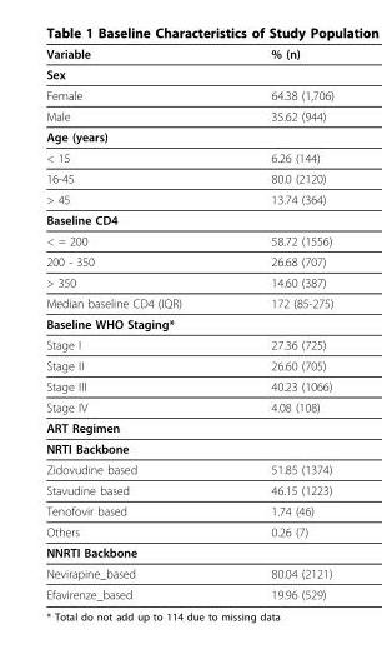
<table><thead><tr><td>Variable</td><td>% (n)</td></tr></thead><tbody><tr><td colspan="2">Sex</td></tr><tr><td>Female</td><td>64.38 (1,706)</td></tr><tr><td>Male</td><td>35.62 (944)</td></tr><tr><td colspan="2">Age (years)</td></tr><tr><td>&lt; 15</td><td>6.26 (144)</td></tr><tr><td>16-45</td><td>80.0 (2120)</td></tr><tr><td>&gt; 45</td><td>13.74 (364)</td></tr><tr><td colspan="2">Baseline CD4</td></tr><tr><td>&lt; = 200</td><td>58.72 (1556)</td></tr><tr><td>200 - 350</td><td>26.68 (707)</td></tr><tr><td>&gt; 350</td><td>14.60 (387)</td></tr><tr><td>Median baseline CD4 (IQR)</td><td>172 (85-275)</td></tr><tr><td colspan="2">Baseline WHO Staging*</td></tr><tr><td>Stage I</td><td>27.36 (725)</td></tr><tr><td>Stage II</td><td>26.60 (705)</td></tr><tr><td>Stage III</td><td>40.23 (1066)</td></tr><tr><td>Stage IV</td><td>4.08 (108)</td></tr><tr><td colspan="2">ART Regimen</td></tr><tr><td colspan="2">NRTI Backbone</td></tr><tr><td>Zidovudine based</td><td>51.85 (1374)</td></tr><tr><td>Stavudine based</td><td>46.15 (1223)</td></tr><tr><td>Tenofovir based</td><td>1.74 (46)</td></tr><tr><td>Others</td><td>0.26 (7)</td></tr><tr><td colspan="2">NNRTI Backbone</td></tr><tr><td>Nevirapine_based</td><td>80.04 (2121)</td></tr><tr><td>Efavirenze_based</td><td>19.96 (529)</td></tr></tbody></table>